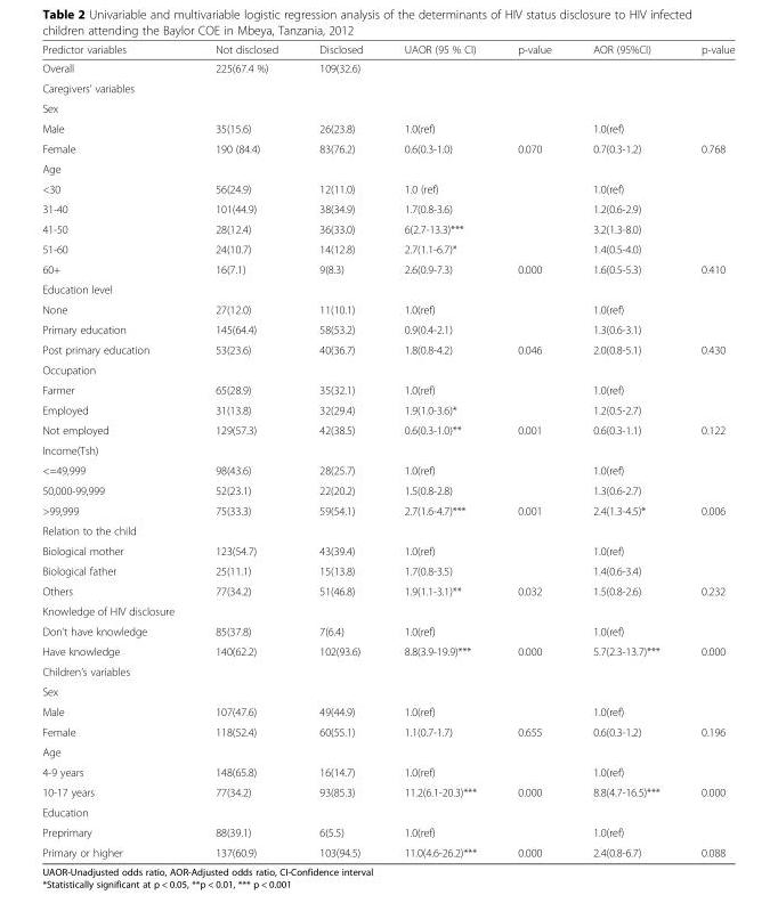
<table><thead><tr><td>Predictor variables</td><td>Not disclosed</td><td>Disclosed</td><td>UAOR (95 % CI)</td><td>p-value</td><td>AOR (95%CI)</td><td>p-value</td></tr></thead><tbody><tr><td>Overall</td><td>225(67.4 %)</td><td>109(32.6)</td><td></td><td></td><td></td><td></td></tr><tr><td colspan="7">Caregivers’ variables</td></tr><tr><td colspan="7">Sex</td></tr><tr><td>Male</td><td>35(15.6)</td><td>26(23.8)</td><td>1.0(ref)</td><td></td><td>1.0(ref)</td><td></td></tr><tr><td>Female</td><td>190 (84.4)</td><td>83(76.2)</td><td>0.6(0.3-1.0)</td><td>0.070</td><td>0.7(0.3-1.2)</td><td>0.768</td></tr><tr><td colspan="7">Age</td></tr><tr><td>&lt;30</td><td>56(24.9)</td><td>12(11.0)</td><td>1.0 (ref)</td><td></td><td>1.0(ref)</td><td></td></tr><tr><td>31-40</td><td>101(44.9)</td><td>38(34.9)</td><td>1.7(0.8-3.6)</td><td></td><td>1.2(0.6-2.9)</td><td></td></tr><tr><td>41-50</td><td>28(12.4)</td><td>36(33.0)</td><td>6(2.7-13.3)***</td><td></td><td>3.2(1.3-8.0)</td><td></td></tr><tr><td>51-60</td><td>24(10.7)</td><td>14(12.8)</td><td>2.7(1.1-6.7)*</td><td></td><td>1.4(0.5-4.0)</td><td></td></tr><tr><td>60+</td><td>16(7.1)</td><td>9(8.3)</td><td>2.6(0.9-7.3)</td><td>0.000</td><td>1.6(0.5-5.3)</td><td>0.410</td></tr><tr><td colspan="7">Education level</td></tr><tr><td>None</td><td>27(12.0)</td><td>11(10.1)</td><td>1.0(ref)</td><td></td><td>1.0(ref)</td><td></td></tr><tr><td>Primary education</td><td>145(64.4)</td><td>58(53.2)</td><td>0.9(0.4-2.1)</td><td></td><td>1.3(0.6-3.1)</td><td></td></tr><tr><td>Post primary education</td><td>53(23.6)</td><td>40(36.7)</td><td>1.8(0.8-4.2)</td><td>0.046</td><td>2.0(0.8-5.1)</td><td>0.430</td></tr><tr><td colspan="7">Occupation</td></tr><tr><td>Farmer</td><td>65(28.9)</td><td>35(32.1)</td><td>1.0(ref)</td><td></td><td>1.0(ref)</td><td></td></tr><tr><td>Employed</td><td>31(13.8)</td><td>32(29.4)</td><td>1.9(1.0-3.6)*</td><td></td><td>1.2(0.5-2.7)</td><td></td></tr><tr><td>Not employed</td><td>129(57.3)</td><td>42(38.5)</td><td>0.6(0.3-1.0)**</td><td>0.001</td><td>0.6(0.3-1.1)</td><td>0.122</td></tr><tr><td colspan="7">Income(Tsh)</td></tr><tr><td>&lt;=49,999</td><td>98(43.6)</td><td>28(25.7)</td><td>1.0(ref)</td><td></td><td>1.0(ref)</td><td></td></tr><tr><td>50,000-99,999</td><td>52(23.1)</td><td>22(20.2)</td><td>1.5(0.8-2.8)</td><td></td><td>1.3(0.6-2.7)</td><td></td></tr><tr><td>&gt;99,999</td><td>75(33.3)</td><td>59(54.1)</td><td>2.7(1.6-4.7)***</td><td>0.001</td><td>2.4(1.3-4.5)*</td><td>0.006</td></tr><tr><td colspan="7">Relation to the child</td></tr><tr><td>Biological mother</td><td>123(54.7)</td><td>43(39.4)</td><td>1.0(ref)</td><td></td><td>1.0(ref)</td><td></td></tr><tr><td>Biological father</td><td>25(11.1)</td><td>15(13.8)</td><td>1.7(0.8-3.5)</td><td></td><td>1.4(0.6-3.4)</td><td></td></tr><tr><td>Others</td><td>77(34.2)</td><td>51(46.8)</td><td>1.9(1.1-3.1)**</td><td>0.032</td><td>1.5(0.8-2.6)</td><td>0.232</td></tr><tr><td colspan="7">Knowledge of HIV disclosure</td></tr><tr><td>Don’t have knowledge</td><td>85(37.8)</td><td>7(6.4)</td><td>1.0(ref)</td><td></td><td>1.0(ref)</td><td></td></tr><tr><td>Have knowledge</td><td>140(62.2)</td><td>102(93.6)</td><td>8.8(3.9-19.9)***</td><td>0.000</td><td>5.7(2.3-13.7)***</td><td>0.000</td></tr><tr><td colspan="7">Children’s variables</td></tr><tr><td colspan="7">Sex</td></tr><tr><td>Male</td><td>107(47.6)</td><td>49(44.9)</td><td>1.0(ref)</td><td></td><td>1.0(ref)</td><td></td></tr><tr><td>Female</td><td>118(52.4)</td><td>60(55.1)</td><td>1.1(0.7-1.7)</td><td>0.655</td><td>0.6(0.3-1.2)</td><td>0.196</td></tr><tr><td colspan="7">Age</td></tr><tr><td>4-9 years</td><td>148(65.8)</td><td>16(14.7)</td><td>1.0(ref)</td><td></td><td>1.0(ref)</td><td></td></tr><tr><td>10-17 years</td><td>77(34.2)</td><td>93(85.3)</td><td>11.2(6.1-20.3)***</td><td>0.000</td><td>8.8(4.7-16.5)***</td><td>0.000</td></tr><tr><td colspan="7">Education</td></tr><tr><td>Preprimary</td><td>88(39.1)</td><td>6(5.5)</td><td>1.0(ref)</td><td></td><td>1.0(ref)</td><td></td></tr><tr><td>Primary or higher</td><td>137(60.9)</td><td>103(94.5)</td><td>11.0(4.6-26.2)***</td><td>0.000</td><td>2.4(0.8-6.7)</td><td>0.088</td></tr></tbody></table>